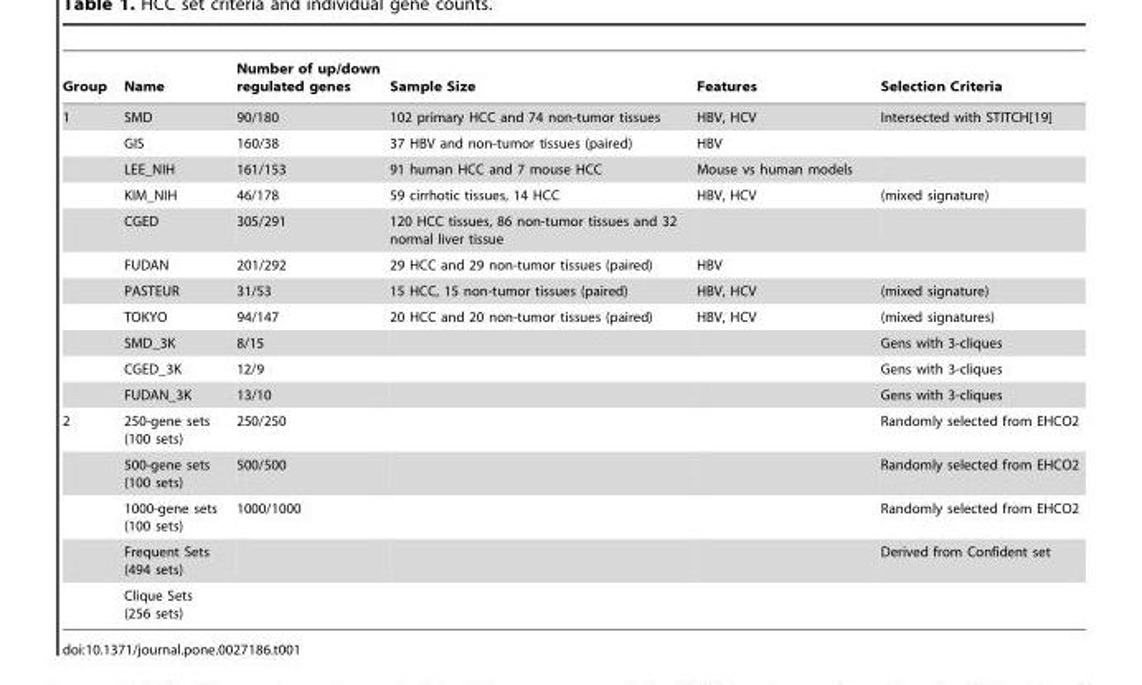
<table><thead><tr><td>Group</td><td>Name</td><td>Number of up/down regulated genes</td><td>Sample Size</td><td>Features</td><td>Selection Criteria</td></tr></thead><tbody><tr><td rowspan="11">1</td><td>SMD</td><td>90/180</td><td>102 primary HCC and 74 non-tumor tissues</td><td>HBV, HCV</td><td>Intersected with STITCH[19]</td></tr><tr><td>GIS</td><td>160/38</td><td>37 HBV and non-tumor tissues (paired)</td><td>HBV</td><td></td></tr><tr><td>LEE_NIH</td><td>161/153</td><td>91 human HCC and 7 mouse HCC</td><td>Mouse vs human models</td><td></td></tr><tr><td>KIM_NIH</td><td>46/178</td><td>59 cirrhotic tissues, 14 HCC</td><td>HBV, HCV</td><td>(mixed signature)</td></tr><tr><td>CGED</td><td>305/291</td><td>120 HCC tissues, 86 non-tumor tissues and 32 normal liver tissue</td><td></td><td></td></tr><tr><td>FUDAN</td><td>201/292</td><td>29 HCC and 29 non-tumor tissues (paired)</td><td>HBV</td><td></td></tr><tr><td>PASTEUR</td><td>31/53</td><td>15 HCC, 15 non-tumor tissues (paired)</td><td>HBV, HCV</td><td>(mixed signature)</td></tr><tr><td>TOKYO</td><td>94/147</td><td>20 HCC and 20 non-tumor tissues (paired)</td><td>HBV, HCV</td><td>(mixed signatures)</td></tr><tr><td>SMD_3K</td><td>8/15</td><td></td><td></td><td>Gens with 3-cliques</td></tr><tr><td>CGED_3K</td><td>12/9</td><td></td><td></td><td>Gens with 3-cliques</td></tr><tr><td>FUDAN_3K</td><td>13/10</td><td></td><td></td><td>Gens with 3-cliques</td></tr><tr><td rowspan="5">2</td><td>250-gene sets (100 sets)</td><td>250/250</td><td></td><td></td><td>Randomly selected from EHCO2</td></tr><tr><td>500-gene sets (100 sets)</td><td>500/500</td><td></td><td></td><td>Randomly selected from EHCO2</td></tr><tr><td>1000-gene sets (100 sets)</td><td>1000/1000</td><td></td><td></td><td>Randomly selected from EHCO2</td></tr><tr><td>Frequent Sets (494 sets)</td><td></td><td></td><td></td><td>Derived from Confident set</td></tr><tr><td>Clique Sets (256 sets)</td><td></td><td></td><td></td><td></td></tr></tbody></table>